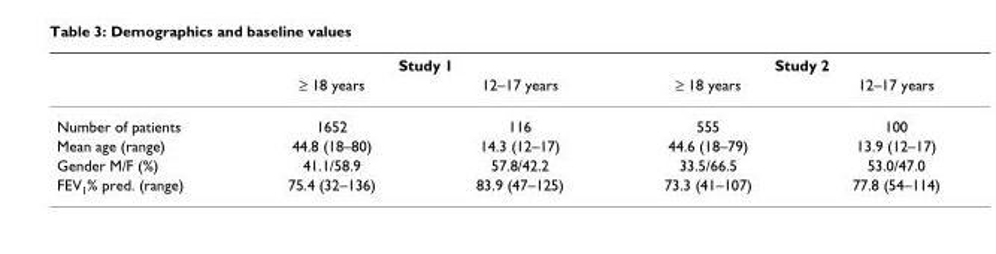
<table><thead><tr><td rowspan="2"></td><td colspan="2">Study 1</td><td colspan="2">Study 2</td></tr><tr><td>≥ 18 years</td><td>12–17 years</td><td>≥ 18 years</td><td>12–17 years</td></tr></thead><tbody><tr><td>Number of patients</td><td>1652</td><td>116</td><td>555</td><td>100</td></tr><tr><td>Mean age (range)</td><td>44.8 (18–80)</td><td>14.3 (12–17)</td><td>44.6 (18–79)</td><td>13.9 (12–17)</td></tr><tr><td>Gender M/F (%)</td><td>41.1/58.9</td><td>57.8/42.2</td><td>33.5/66.5</td><td>53.0/47.0</td></tr><tr><td>FEV<sub>1</sub>% pred. (range)</td><td>75.4 (32–136)</td><td>83.9 (47–125)</td><td>73.3 (41–107)</td><td>77.8 (54–114)</td></tr></tbody></table>